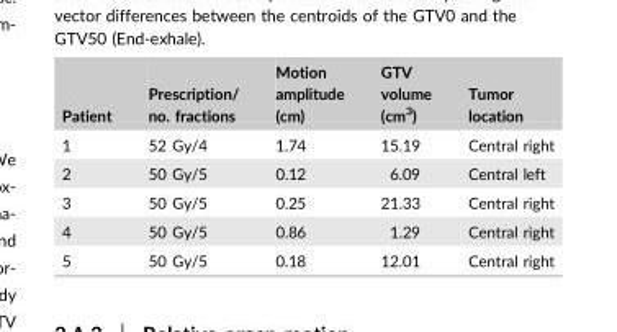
<table><thead><tr><td>Patient</td><td>Prescription/ no. fractions</td><td>Motion amplitude (cm)</td><td>GTV volume (cm<sup>3</sup>)</td><td>Tumor location</td></tr></thead><tbody><tr><td>1</td><td>52 Gy/4</td><td>1.74</td><td>15.19</td><td>Central right</td></tr><tr><td>2</td><td>50 Gy/5</td><td>0.12</td><td>6.09</td><td>Central left</td></tr><tr><td>3</td><td>50 Gy/5</td><td>0.25</td><td>21.33</td><td>Central right</td></tr><tr><td>4</td><td>50 Gy/5</td><td>0.86</td><td>1.29</td><td>Central right</td></tr><tr><td>5</td><td>50 Gy/5</td><td>0.18</td><td>12.01</td><td>Central right</td></tr></tbody></table>